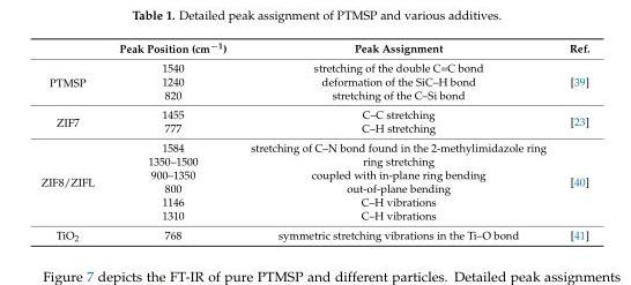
<table><thead><tr><td></td><td>Peak Position (cm<sup>−1</sup>)</td><td>Peak Assignment</td><td>Ref.</td></tr></thead><tbody><tr><td rowspan="3">PTMSP</td><td>1540</td><td>stretching of the double C=C bond</td><td rowspan="3">[39]</td></tr><tr><td>1240</td><td>deformation of the SiC–H bond</td></tr><tr><td>820</td><td>stretching of the C–Si bond</td></tr><tr><td rowspan="2">ZIF7</td><td>1455</td><td>C–C stretching</td><td rowspan="2">[23]</td></tr><tr><td>777</td><td>C–H stretching</td></tr><tr><td rowspan="6">ZIF8/ZIFL</td><td>1584</td><td>stretching of C–N bond found in the 2-methylimidazole ring</td><td rowspan="6">[40]</td></tr><tr><td>1350–1500</td><td>ring stretching</td></tr><tr><td>900–1350</td><td>coupled with in-plane ring bending</td></tr><tr><td>800</td><td>out-of-plane bending</td></tr><tr><td>1146</td><td>C–H vibrations</td></tr><tr><td>1310</td><td>C–H vibrations</td></tr><tr><td>TiO<sub>2</sub></td><td>768</td><td>symmetric stretching vibrations in the Ti–O bond</td><td>[41]</td></tr></tbody></table>